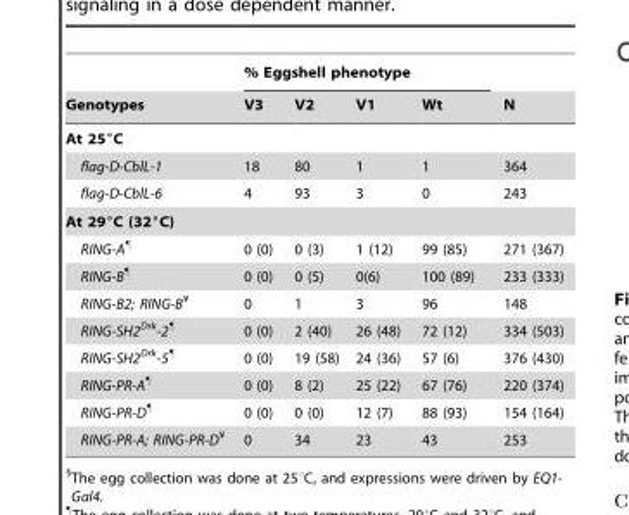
<table><thead><tr><td rowspan="2">Genotypes</td><td colspan="4">% Eggshell phenotype</td><td rowspan="2">N</td></tr><tr><td>V3</td><td>V2</td><td>V1</td><td>Wt</td></tr></thead><tbody><tr><td colspan="6">At 25°C</td></tr><tr><td>flag-D-CblL-1</td><td>18</td><td>80</td><td>1</td><td>1</td><td>364</td></tr><tr><td>flag-D-CblL-6</td><td>4</td><td>93</td><td>3</td><td>0</td><td>243</td></tr><tr><td colspan="6">At 29°C (32°C)</td></tr><tr><td>RING-A¶</td><td>0 (0)</td><td>0 (3)</td><td>1 (12)</td><td>99 (85)</td><td>271 (367)</td></tr><tr><td>RING-B¶</td><td>0 (0)</td><td>0 (5)</td><td>0(6)</td><td>100 (89)</td><td>233 (333)</td></tr><tr><td>RING-B2; RING-B¥</td><td>0</td><td>1</td><td>3</td><td>96</td><td>148</td></tr><tr><td>RING-SH2<sup>Drk</sup>-2¶</td><td>0 (0)</td><td>2 (40)</td><td>26 (48)</td><td>72 (12)</td><td>334 (503)</td></tr><tr><td>RING-SH2<sup>Drk</sup>-5¶</td><td>0 (0)</td><td>19 (58)</td><td>24 (36)</td><td>57 (6)</td><td>376 (430)</td></tr><tr><td>RING-PR-A¶</td><td>0 (0)</td><td>8 (2)</td><td>25 (22)</td><td>67 (76)</td><td>220 (374)</td></tr><tr><td>RING-PR-D¶</td><td>0 (0)</td><td>0 (0)</td><td>12 (7)</td><td>88 (93)</td><td>154 (164)</td></tr><tr><td>RING-PR-A; RING-PR-D¥</td><td>0</td><td>34</td><td>23</td><td>43</td><td>253</td></tr></tbody></table>